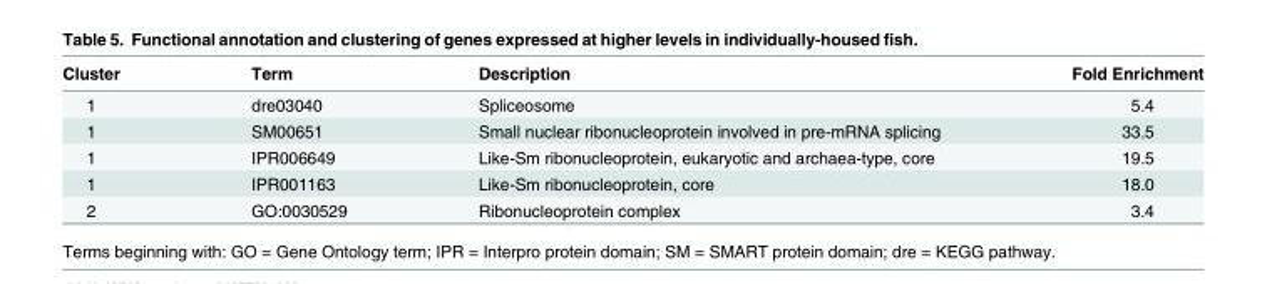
<table><thead><tr><td>Cluster</td><td>Term</td><td>Description</td><td>Fold Enrichment</td></tr></thead><tbody><tr><td>1</td><td>dre03040</td><td>Spliceosome</td><td>5.4</td></tr><tr><td>1</td><td>SM00651</td><td>Small nuclear ribonucleoprotein involved in pre-mRNA splicing</td><td>33.5</td></tr><tr><td>1</td><td>IPR006649</td><td>Like-Sm ribonucleoprotein, eukaryotic and archaea-type, core</td><td>19.5</td></tr><tr><td>1</td><td>IPR001163</td><td>Like-Sm ribonucleoprotein, core</td><td>18.0</td></tr><tr><td>2</td><td>GO:0030529</td><td>Ribonucleoprotein complex</td><td>3.4</td></tr></tbody></table>